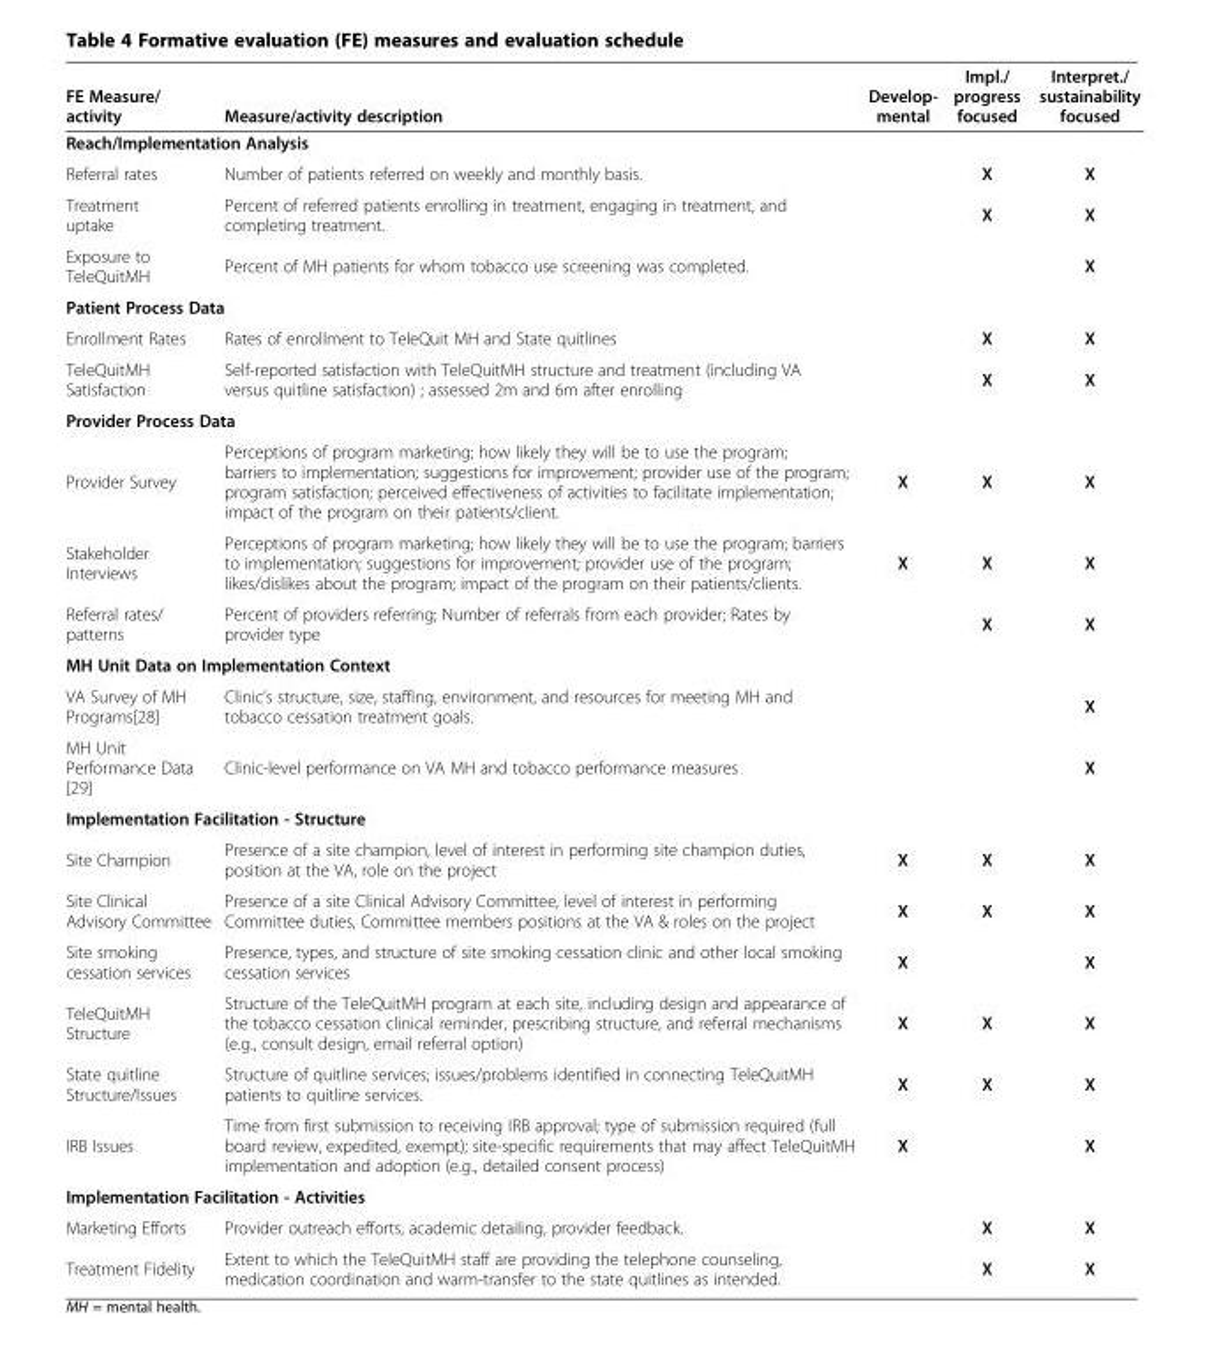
<table><thead><tr><td>FE Measure/ activity</td><td>Measure/activity description</td><td>Develop- mental</td><td>Impl./ progress focused</td><td>Interpret./ sustainability focused</td></tr></thead><tbody><tr><td colspan="5">Reach/Implementation Analysis</td></tr><tr><td>Referral rates</td><td>Number of patients referred on weekly and monthly basis.</td><td></td><td>X</td><td>X</td></tr><tr><td>Treatment uptake</td><td>Percent of referred patients enrolling in treatment, engaging in treatment, and completing treatment.</td><td></td><td>X</td><td>X</td></tr><tr><td>Exposure to TeleQuitMH</td><td>Percent of MH patients for whom tobacco use screening was completed.</td><td></td><td></td><td>X</td></tr><tr><td colspan="5">Patient Process Data</td></tr><tr><td>Enrollment Rates</td><td>Rates of enrollment to TeleQuit MH and State quitlines</td><td></td><td>X</td><td>X</td></tr><tr><td>TeleQuitMH Satisfaction</td><td>Self-reported satisfaction with TeleQuitMH structure and treatment (including VA versus quitline satisfaction) ; assessed 2m and 6m after enrolling</td><td></td><td>X</td><td>X</td></tr><tr><td colspan="5">Provider Process Data</td></tr><tr><td>Provider Survey</td><td>Perceptions of program marketing; how likely they will be to use the program; barriers to implementation; suggestions for improvement; provider use of the program; program satisfaction; perceived effectiveness of activities to facilitate implementation; impact of the program on their patients/client.</td><td>X</td><td>X</td><td>X</td></tr><tr><td>Stakeholder Interviews</td><td>Perceptions of program marketing; how likely they will be to use the program; barriers to implementation; suggestions for improvement; provider use of the program; likes/dislikes about the program; impact of the program on their patients/clients.</td><td>X</td><td>X</td><td>X</td></tr><tr><td>Referral rates/ patterns</td><td>Percent of providers referring; Number of referrals from each provider; Rates by provider type</td><td></td><td>X</td><td>X</td></tr><tr><td colspan="5">MH Unit Data on Implementation Context</td></tr><tr><td>VA Survey of MH Programs[28]</td><td>Clinic’s structure, size, staffing, environment, and resources for meeting MH and tobacco cessation treatment goals.</td><td></td><td></td><td>X</td></tr><tr><td>MH Unit Performance Data [29]</td><td>Clinic-level performance on VA MH and tobacco performance measures</td><td></td><td></td><td>X</td></tr><tr><td colspan="5">Implementation Facilitation - Structure</td></tr><tr><td>Site Champion</td><td>Presence of a site champion, level of interest in performing site champion duties, position at the VA, role on the project</td><td>X</td><td>X</td><td>X</td></tr><tr><td>Site Clinical Advisory Committee</td><td>Presence of a site Clinical Advisory Committee, level of interest in performing Committee duties, Committee members positions at the VA &amp; roles on the project</td><td>X</td><td>X</td><td>X</td></tr><tr><td>Site smoking cessation services</td><td>Presence, types, and structure of site smoking cessation clinic and other local smoking cessation services</td><td>X</td><td></td><td>X</td></tr><tr><td>TeleQuitMH Structure</td><td>Structure of the TeleQuitMH program at each site, including design and appearance of the tobacco cessation clinical reminder, prescribing structure, and referral mechanisms (e.g., consult design, email referral option)</td><td>X</td><td>X</td><td>X</td></tr><tr><td>State quitline Structure/Issues</td><td>Structure of quitline services; issues/problems identified in connecting TeleQuitMH patients to quitline services.</td><td>X</td><td>X</td><td>X</td></tr><tr><td>IRB Issues</td><td>Time from first submission to receiving IRB approval; type of submission required (full board review, expedited, exempt); site-specific requirements that may affect TeleQuitMH implementation and adoption (e.g., detailed consent process)</td><td>X</td><td></td><td>X</td></tr><tr><td colspan="5">Implementation Facilitation - Activities</td></tr><tr><td>Marketing Efforts</td><td>Provider outreach efforts, academic detailing, provider feedback.</td><td></td><td>X</td><td>X</td></tr><tr><td>Treatment Fidelity</td><td>Extent to which the TeleQuitMH staff are providing the telephone counseling, medication coordination and warm-transfer to the state quitlines as intended.</td><td></td><td>X</td><td>X</td></tr></tbody></table>